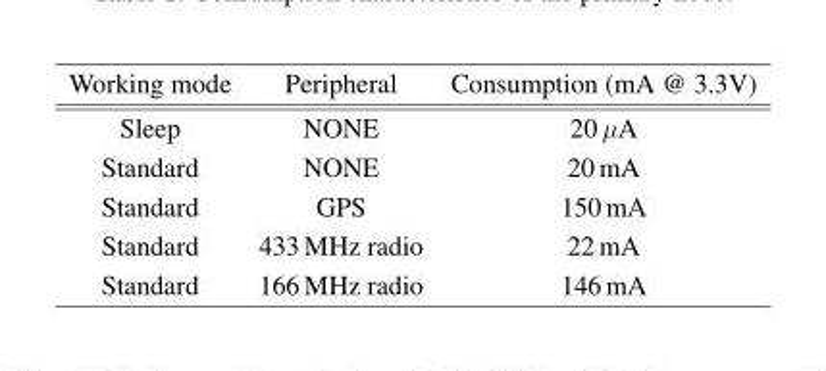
<table><thead><tr><td>Working mode</td><td>Peripheral</td><td>Consumption (mA @ 3.3V)</td></tr></thead><tbody><tr><td>Sleep</td><td>NONE</td><td>20 µA</td></tr><tr><td>Standard</td><td>NONE</td><td>20 mA</td></tr><tr><td>Standard</td><td>GPS</td><td>150 mA</td></tr><tr><td>Standard</td><td>433 MHz radio</td><td>22 mA</td></tr><tr><td>Standard</td><td>166 MHz radio</td><td>146 mA</td></tr></tbody></table>